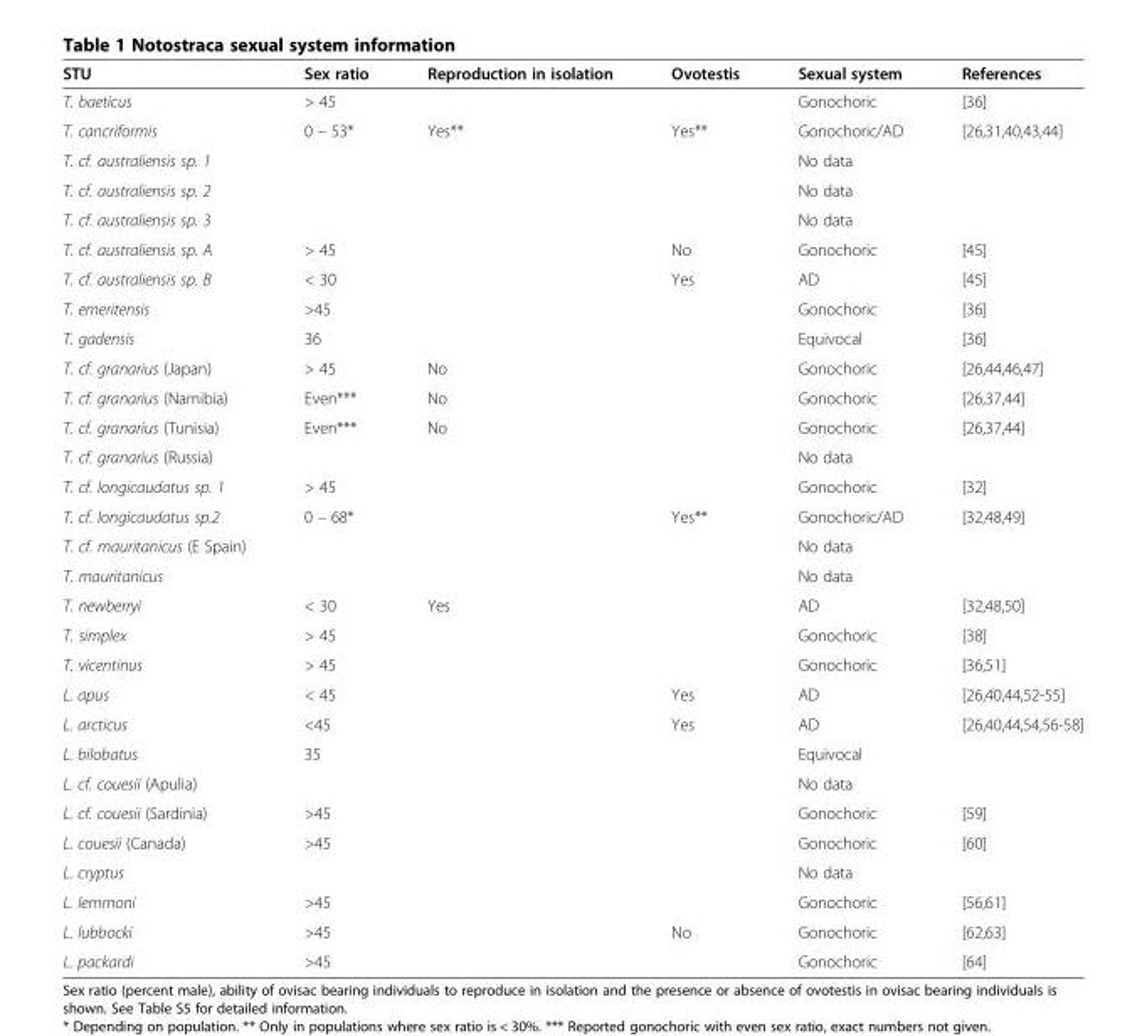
<table><thead><tr><td>STU</td><td>Sex ratio</td><td>Reproduction in isolation</td><td>Ovotestis</td><td>Sexual system</td><td>References</td></tr></thead><tbody><tr><td>T. baeticus</td><td>&gt; 45</td><td></td><td></td><td>Gonochoric</td><td>[36]</td></tr><tr><td>T. cancriformis</td><td>0 – 53*</td><td>Yes**</td><td>Yes**</td><td>Gonochoric/AD</td><td>[26,31,40,43,44]</td></tr><tr><td>T. cf. australiensis sp. 1</td><td></td><td></td><td></td><td>No data</td><td></td></tr><tr><td>T. cf. australiensis sp. 2</td><td></td><td></td><td></td><td>No data</td><td></td></tr><tr><td>T. cf. australiensis sp. 3</td><td></td><td></td><td></td><td>No data</td><td></td></tr><tr><td>T. cf. australiensis sp. A</td><td>&gt; 45</td><td></td><td>No</td><td>Gonochoric</td><td>[45]</td></tr><tr><td>T. cf. australiensis sp. B</td><td>&lt; 30</td><td></td><td>Yes</td><td>AD</td><td>[45]</td></tr><tr><td>T. emeritensis</td><td>&gt;45</td><td></td><td></td><td>Gonochoric</td><td>[36]</td></tr><tr><td>T. gadensis</td><td>36</td><td></td><td></td><td>Equivocal</td><td>[36]</td></tr><tr><td>T. cf. granarius (Japan)</td><td>&gt; 45</td><td>No</td><td></td><td>Gonochoric</td><td>[26,44,46,47]</td></tr><tr><td>T. cf. granarius (Namibia)</td><td>Even***</td><td>No</td><td></td><td>Gonochoric</td><td>[26,37,44]</td></tr><tr><td>T. cf. granarius (Tunisia)</td><td>Even***</td><td>No</td><td></td><td>Gonochoric</td><td>[26,37,44]</td></tr><tr><td>T. cf. granarius (Russia)</td><td></td><td></td><td></td><td>No data</td><td></td></tr><tr><td>T. cf. longicaudatus sp. 1</td><td>&gt; 45</td><td></td><td></td><td>Gonochoric</td><td>[32]</td></tr><tr><td>T. cf. longicaudatus sp.2</td><td>0 – 68*</td><td></td><td>Yes**</td><td>Gonochoric/AD</td><td>[32,48,49]</td></tr><tr><td>T. cf. mauritanicus (E Spain)</td><td></td><td></td><td></td><td>No data</td><td></td></tr><tr><td>T. mauritanicus</td><td></td><td></td><td></td><td>No data</td><td></td></tr><tr><td>T. newberryi</td><td>&lt; 30</td><td>Yes</td><td></td><td>AD</td><td>[32,48,50]</td></tr><tr><td>T. simplex</td><td>&gt; 45</td><td></td><td></td><td>Gonochoric</td><td>[38]</td></tr><tr><td>T. vicentinus</td><td>&gt; 45</td><td></td><td></td><td>Gonochoric</td><td>[36,51]</td></tr><tr><td>L. apus</td><td>&lt; 45</td><td></td><td>Yes</td><td>AD</td><td>[26,40,44,52-55]</td></tr><tr><td>L. arcticus</td><td>&lt;45</td><td></td><td>Yes</td><td>AD</td><td>[26,40,44,54,56-58]</td></tr><tr><td>L. bilobatus</td><td>35</td><td></td><td></td><td>Equivocal</td><td></td></tr><tr><td>L. cf. couesii (Apulia)</td><td></td><td></td><td></td><td>No data</td><td></td></tr><tr><td>L. cf. couesii (Sardinia)</td><td>&gt;45</td><td></td><td></td><td>Gonochoric</td><td>[59]</td></tr><tr><td>L. couesii (Canada)</td><td>&gt;45</td><td></td><td></td><td>Gonochoric</td><td>[60]</td></tr><tr><td>L. cryptus</td><td></td><td></td><td></td><td>No data</td><td></td></tr><tr><td>L. lemmoni</td><td>&gt;45</td><td></td><td></td><td>Gonochoric</td><td>[56,61]</td></tr><tr><td>L. lubbocki</td><td>&gt;45</td><td></td><td>No</td><td>Gonochoric</td><td>[62,63]</td></tr><tr><td>L. packardi</td><td>&gt;45</td><td></td><td></td><td>Gonochoric</td><td>[64]</td></tr></tbody></table>